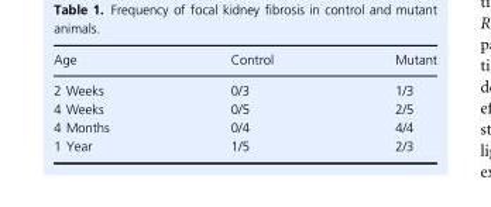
<table><thead><tr><td>Age</td><td>Control</td><td>Mutant</td></tr></thead><tbody><tr><td>2 Weeks</td><td>0/3</td><td>1/3</td></tr><tr><td>4 Weeks</td><td>0/5</td><td>2/5</td></tr><tr><td>4 Months</td><td>0/4</td><td>4/4</td></tr><tr><td>1 Year</td><td>1/5</td><td>2/3</td></tr></tbody></table>